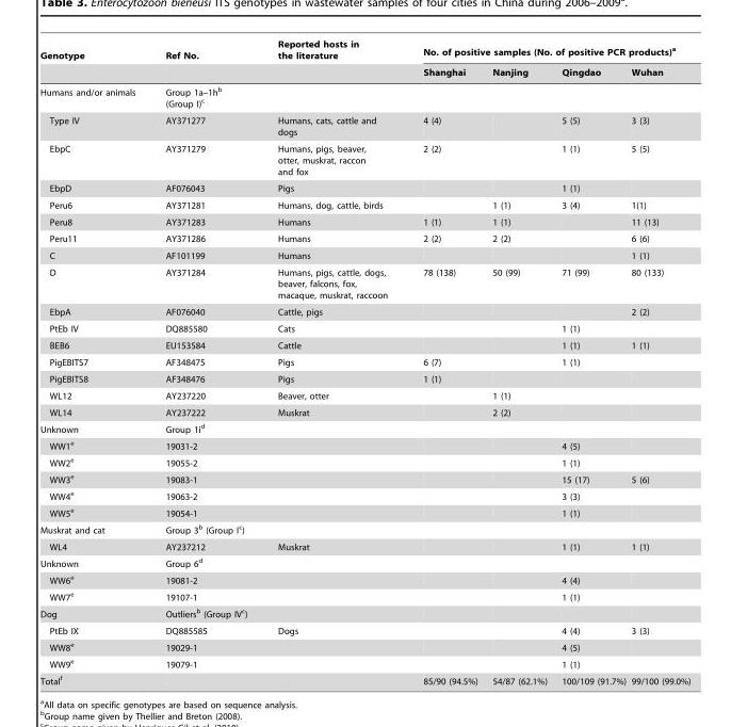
<table><thead><tr><td rowspan="2">Genotype</td><td rowspan="2">Ref No.</td><td rowspan="2">Reported hosts in the literature</td><td colspan="4">No. of positive samples (No. of positive PCR products)<sup>a</sup></td></tr><tr><td>Shanghai</td><td>Nanjing</td><td>Qingdao</td><td>Wuhan</td></tr></thead><tbody><tr><td>Humans and/or animals</td><td>Group 1a–1h<sup>b</sup> (Group I)<sup>c</sup></td><td></td><td></td><td></td><td></td><td></td></tr><tr><td>Type IV</td><td>AY371277</td><td>Humans, cats, cattle and dogs</td><td>4 (4)</td><td></td><td>5 (5)</td><td>3 (3)</td></tr><tr><td>EbpC</td><td>AY371279</td><td>Humans, pigs, beaver, otter, muskrat, raccon and fox</td><td>2 (2)</td><td></td><td>1 (1)</td><td>5 (5)</td></tr><tr><td>EbpD</td><td>AF076043</td><td>Pigs</td><td></td><td></td><td>1 (1)</td><td></td></tr><tr><td>Peru6</td><td>AY371281</td><td>Humans, dog, cattle, birds</td><td></td><td>1 (1)</td><td>3 (4)</td><td>1(1)</td></tr><tr><td>Peru8</td><td>AY371283</td><td>Humans</td><td>1 (1)</td><td>1 (1)</td><td></td><td>11 (13)</td></tr><tr><td>Peru11</td><td>AY371286</td><td>Humans</td><td>2 (2)</td><td>2 (2)</td><td></td><td>6 (6)</td></tr><tr><td>C</td><td>AF101199</td><td>Humans</td><td></td><td></td><td></td><td>1 (1)</td></tr><tr><td>D</td><td>AY371284</td><td>Humans, pigs, cattle, dogs, beaver, falcons, fox, macaque, muskrat, raccoon</td><td>78 (138)</td><td>50 (99)</td><td>71 (99)</td><td>80 (133)</td></tr><tr><td>EbpA</td><td>AF076040</td><td>Cattle, pigs</td><td></td><td></td><td></td><td>2 (2)</td></tr><tr><td>PtEb IV</td><td>DQ885580</td><td>Cats</td><td></td><td></td><td>1 (1)</td><td></td></tr><tr><td>BEB6</td><td>EU153584</td><td>Cattle</td><td></td><td></td><td>1 (1)</td><td>1 (1)</td></tr><tr><td>PigEBITS7</td><td>AF348475</td><td>Pigs</td><td>6 (7)</td><td></td><td>1 (1)</td><td></td></tr><tr><td>PigEBITS8</td><td>AF348476</td><td>Pigs</td><td>1 (1)</td><td></td><td></td><td></td></tr><tr><td>WL12</td><td>AY237220</td><td>Beaver, otter</td><td></td><td>1 (1)</td><td></td><td></td></tr><tr><td>WL14</td><td>AY237222</td><td>Muskrat</td><td></td><td>2 (2)</td><td></td><td></td></tr><tr><td>Unknown</td><td>Group 1i<sup>d</sup></td><td></td><td></td><td></td><td></td><td></td></tr><tr><td>WW1<sup>e</sup></td><td>19031-2</td><td></td><td></td><td></td><td>4 (5)</td><td></td></tr><tr><td>WW2<sup>e</sup></td><td>19055-2</td><td></td><td></td><td></td><td>1 (1)</td><td></td></tr><tr><td>WW3<sup>e</sup></td><td>19083-1</td><td></td><td></td><td></td><td>15 (17)</td><td>5 (6)</td></tr><tr><td>WW4<sup>e</sup></td><td>19063-2</td><td></td><td></td><td></td><td>3 (3)</td><td></td></tr><tr><td>WW5<sup>e</sup></td><td>19054-1</td><td></td><td></td><td></td><td>1 (1)</td><td></td></tr><tr><td>Muskrat and cat</td><td>Group 3<sup>b</sup> (Group I<sup>c</sup>)</td><td></td><td></td><td></td><td></td><td></td></tr><tr><td>WL4</td><td>AY237212</td><td>Muskrat</td><td></td><td></td><td>1 (1)</td><td>1 (1)</td></tr><tr><td>Unknown</td><td>Group 6<sup>d</sup></td><td></td><td></td><td></td><td></td><td></td></tr><tr><td>WW6<sup>e</sup></td><td>19081-2</td><td></td><td></td><td></td><td>4 (4)</td><td></td></tr><tr><td>WW7<sup>e</sup></td><td>19107-1</td><td></td><td></td><td></td><td>1 (1)</td><td></td></tr><tr><td>Dog</td><td>Outliers<sup>b</sup> (Group IV<sup>c</sup>)</td><td></td><td></td><td></td><td></td><td></td></tr><tr><td>PtEb IX</td><td>DQ885585</td><td>Dogs</td><td></td><td></td><td>4 (4)</td><td>3 (3)</td></tr><tr><td>WW8<sup>e</sup></td><td>19029-1</td><td></td><td></td><td></td><td>4 (5)</td><td></td></tr><tr><td>WW9<sup>e</sup></td><td>19079-1</td><td></td><td></td><td></td><td>1 (1)</td><td></td></tr><tr><td>Total<sup>f</sup></td><td></td><td></td><td>85/90 (94.5%)</td><td>54/87 (62.1%)</td><td>100/109 (91.7%)</td><td>99/100 (99.0%)</td></tr></tbody></table>